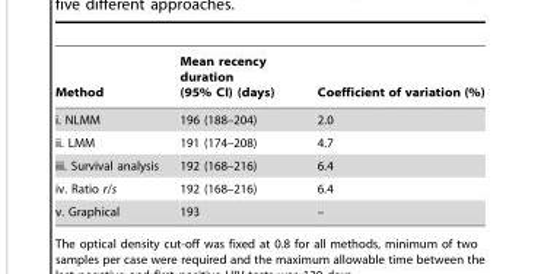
<table><thead><tr><td>Method</td><td>Mean recency duration (95% CI) (days)</td><td>Coefficient of variation (%)</td></tr></thead><tbody><tr><td>i. NLMM</td><td>196 (188–204)</td><td>2.0</td></tr><tr><td>ii. LMM</td><td>191 (174–208)</td><td>4.7</td></tr><tr><td>iii. Survival analysis</td><td>192 (168–216)</td><td>6.4</td></tr><tr><td>iv. Ratio r/s</td><td>192 (168–216)</td><td>6.4</td></tr><tr><td>v. Graphical</td><td>193</td><td>–</td></tr></tbody></table>